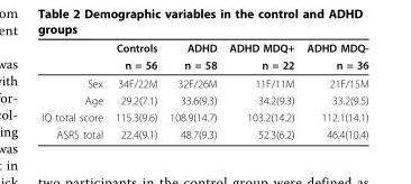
<table><thead><tr><td rowspan="2"></td><td rowspan="2">Controls n = 56</td><td rowspan="2">ADHD n = 58</td><td rowspan="2">ADHD MDQ+ n = 22</td><td rowspan="2">ADHD MDQ- n = 36</td></tr><tr></tr></thead><tbody><tr><td>Sex</td><td>34F/22M</td><td>32F/26M</td><td>11F/11M</td><td>21F/15M</td></tr><tr><td>Age</td><td>29.2(7.1)</td><td>33.6(9.3)</td><td>34.2(9.3)</td><td>33.2(9.5)</td></tr><tr><td>IQ total score</td><td>115.3(9.6)</td><td>108.9(14.7)</td><td>103.2(14.2)</td><td>112.1(14.1)</td></tr><tr><td>ASRS total</td><td>22.4(9.1)</td><td>48.7(9.3)</td><td>52.3(6.2)</td><td>46.4(10.4)</td></tr></tbody></table>